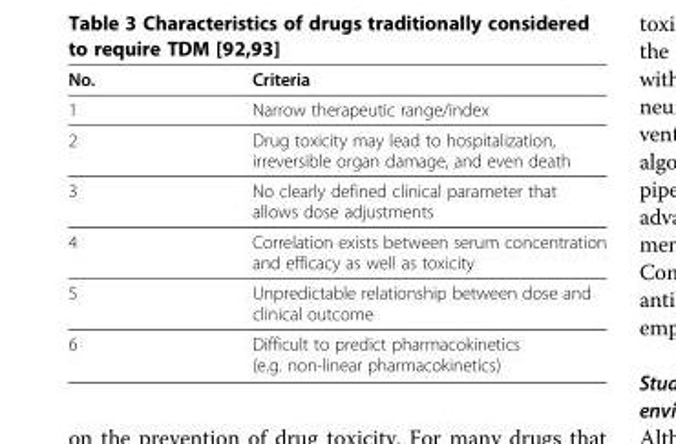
<table><thead><tr><td>No.</td><td>Criteria</td></tr></thead><tbody><tr><td>1</td><td>Narrow therapeutic range/index</td></tr><tr><td>2</td><td>Drug toxicity may lead to hospitalization, irreversible organ damage, and even death</td></tr><tr><td>3</td><td>No clearly defined clinical parameter that allows dose adjustments</td></tr><tr><td>4</td><td>Correlation exists between serum concentration and efficacy as well as toxicity</td></tr><tr><td>5</td><td>Unpredictable relationship between dose and clinical outcome</td></tr><tr><td>6</td><td>Difficult to predict pharmacokinetics (e.g. non-linear pharmacokinetics)</td></tr></tbody></table>